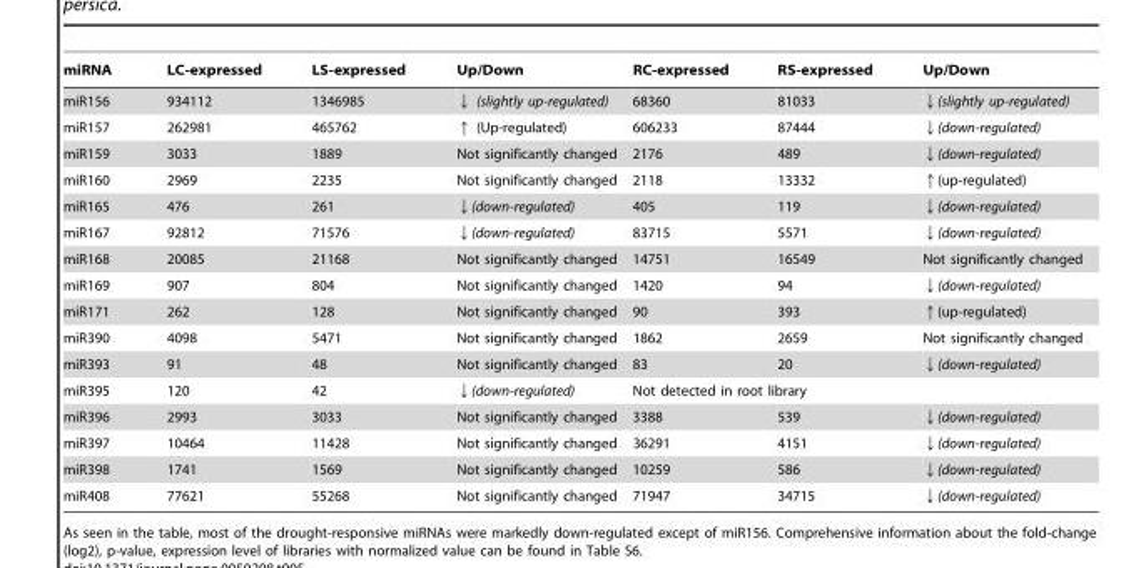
<table><thead><tr><td>miRNA</td><td>LC-expressed</td><td>LS-expressed</td><td>Up/Down</td><td>RC-expressed</td><td>RS-expressed</td><td>Up/Down</td></tr></thead><tbody><tr><td>miR156</td><td>934112</td><td>1346985</td><td>↓ (slightly up-regulated)</td><td>68360</td><td>81033</td><td>↓(slightly up-regulated)</td></tr><tr><td>miR157</td><td>262981</td><td>465762</td><td>↑ (Up-regulated)</td><td>606233</td><td>87444</td><td>↓(down-regulated)</td></tr><tr><td>miR159</td><td>3033</td><td>1889</td><td>Not significantly changed</td><td>2176</td><td>489</td><td>↓(down-regulated)</td></tr><tr><td>miR160</td><td>2969</td><td>2235</td><td>Not significantly changed</td><td>2118</td><td>13332</td><td>↑(up-regulated)</td></tr><tr><td>miR165</td><td>476</td><td>261</td><td>↓(down-regulated)</td><td>405</td><td>119</td><td>↓(down-regulated)</td></tr><tr><td>miR167</td><td>92812</td><td>71576</td><td>↓(down-regulated)</td><td>83715</td><td>5571</td><td>↓(down-regulated)</td></tr><tr><td>miR168</td><td>20085</td><td>21168</td><td>Not significantly changed</td><td>14751</td><td>16549</td><td>Not significantly changed</td></tr><tr><td>miR169</td><td>907</td><td>804</td><td>Not significantly changed</td><td>1420</td><td>94</td><td>↓(down-regulated)</td></tr><tr><td>miR171</td><td>262</td><td>128</td><td>Not significantly changed</td><td>90</td><td>393</td><td>↑(up-regulated)</td></tr><tr><td>miR390</td><td>4098</td><td>5471</td><td>Not significantly changed</td><td>1862</td><td>2659</td><td>Not significantly changed</td></tr><tr><td>miR393</td><td>91</td><td>48</td><td>Not significantly changed</td><td>83</td><td>20</td><td>↓(down-regulated)</td></tr><tr><td>miR395</td><td>120</td><td>42</td><td>↓(down-regulated)</td><td colspan="3">Not detected in root library</td></tr><tr><td>miR396</td><td>2993</td><td>3033</td><td>Not significantly changed</td><td>3388</td><td>539</td><td>↓(down-regulated)</td></tr><tr><td>miR397</td><td>10464</td><td>11428</td><td>Not significantly changed</td><td>36291</td><td>4151</td><td>↓(down-regulated)</td></tr><tr><td>miR398</td><td>1741</td><td>1569</td><td>Not significantly changed</td><td>10259</td><td>586</td><td>↓(down-regulated)</td></tr><tr><td>miR408</td><td>77621</td><td>55268</td><td>Not significantly changed</td><td>71947</td><td>34715</td><td>↓(down-regulated)</td></tr></tbody></table>